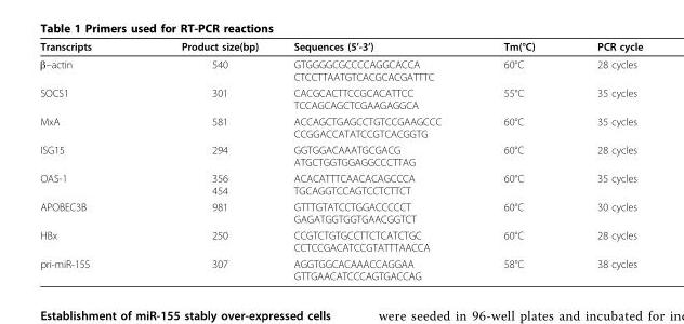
<table><thead><tr><td>Transcripts</td><td>Product size(bp)</td><td>Sequences (5’-3’)</td><td>Tm(°C)</td><td>PCR cycle</td></tr></thead><tbody><tr><td>b–actin</td><td>540</td><td>GTGGGGCGCCCCAGGCACCA CTCCTTAATGTCACGCACGATTTC</td><td>60°C</td><td>28 cycles</td></tr><tr><td>SOCS1</td><td>301</td><td>CACGCACTTCCGCACATTCC TCCAGCAGCTCGAAGAGGCA</td><td>55°C</td><td>35 cycles</td></tr><tr><td>MxA</td><td>581</td><td>ACCAGCTGAGCCTGTCCGAAGCCC CCGGACCATATCCGTCACGGTG</td><td>60°C</td><td>35 cycles</td></tr><tr><td>ISG15</td><td>294</td><td>GGTGGACAAATGCGACG ATGCTGGTGGAGGCCCTTAG</td><td>60°C</td><td>28 cycles</td></tr><tr><td>OAS-1</td><td>356 454</td><td>ACACATTTCAACACAGCCCA TGCAGGTCCAGTCCTCTTCT</td><td>60°C</td><td>35 cycles</td></tr><tr><td>APOBEC3B</td><td>981</td><td>GTTTGTATCCTGGACCCCCT GAGATGGTGGTGAACGGTCT</td><td>60°C</td><td>30 cycles</td></tr><tr><td>HBx</td><td>250</td><td>CCGTCTGTGCCTTCTCATCTGC CCTCCGACATCCGTATTTAACCA</td><td>60°C</td><td>28 cycles</td></tr><tr><td>pri-miR-155</td><td>307</td><td>AGGTGGCACAAACCAGGAA GTTGAACATCCCAGTGACCAG</td><td>58°C</td><td>38 cycles</td></tr></tbody></table>